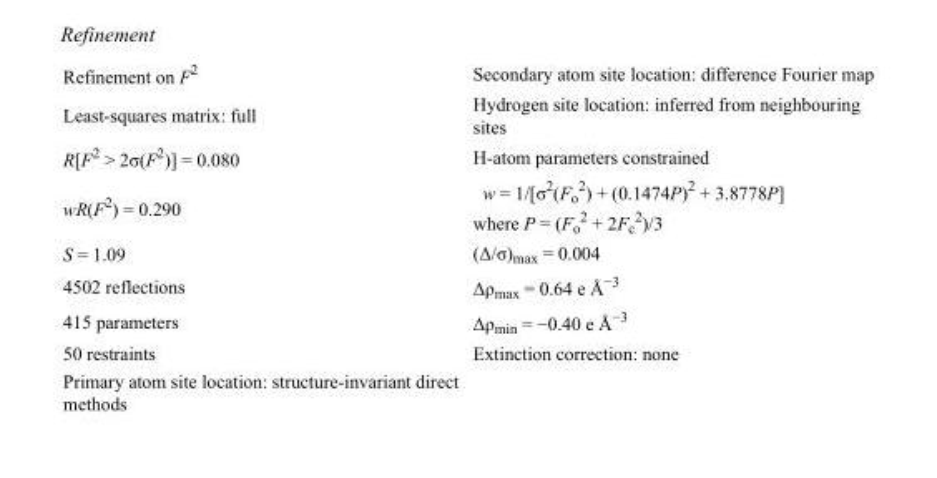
<table><tbody><tr><td>Refinement on F<sup>2</sup></td><td>Secondary atom site location: difference Fourier map</td></tr><tr><td>Least-squares matrix: full</td><td>Hydrogen site location: inferred from neighbouring sites</td></tr><tr><td>R[F<sup>2</sup> &gt; 2σ(F<sup>2</sup>)] = 0.080</td><td>H-atom parameters constrained</td></tr><tr><td>wR(F<sup>2</sup>) = 0.290</td><td>w = 1/[σ<sup>2</sup>(F<sub>o</sub> <sup>2</sup>) + (0.1474P)<sup>2</sup> + 3.8778P] where P = (F<sub>o</sub> <sup>2</sup> + 2F<sub>c</sub> <sup>2</sup>)/3</td></tr><tr><td>S = 1.09</td><td>(Δ/σ)<sub>max</sub> = 0.004</td></tr><tr><td>4502 reflections</td><td>Δρ<sub>max</sub> = 0.64 e Å<sup>−3</sup></td></tr><tr><td>415 parameters</td><td>Δρ<sub>min</sub> = −0.40 e Å<sup>−3</sup></td></tr><tr><td>50 restraints</td><td>Extinction correction: none</td></tr><tr><td>Primary atom site location: structure-invariant direct methods</td><td></td></tr></tbody></table>